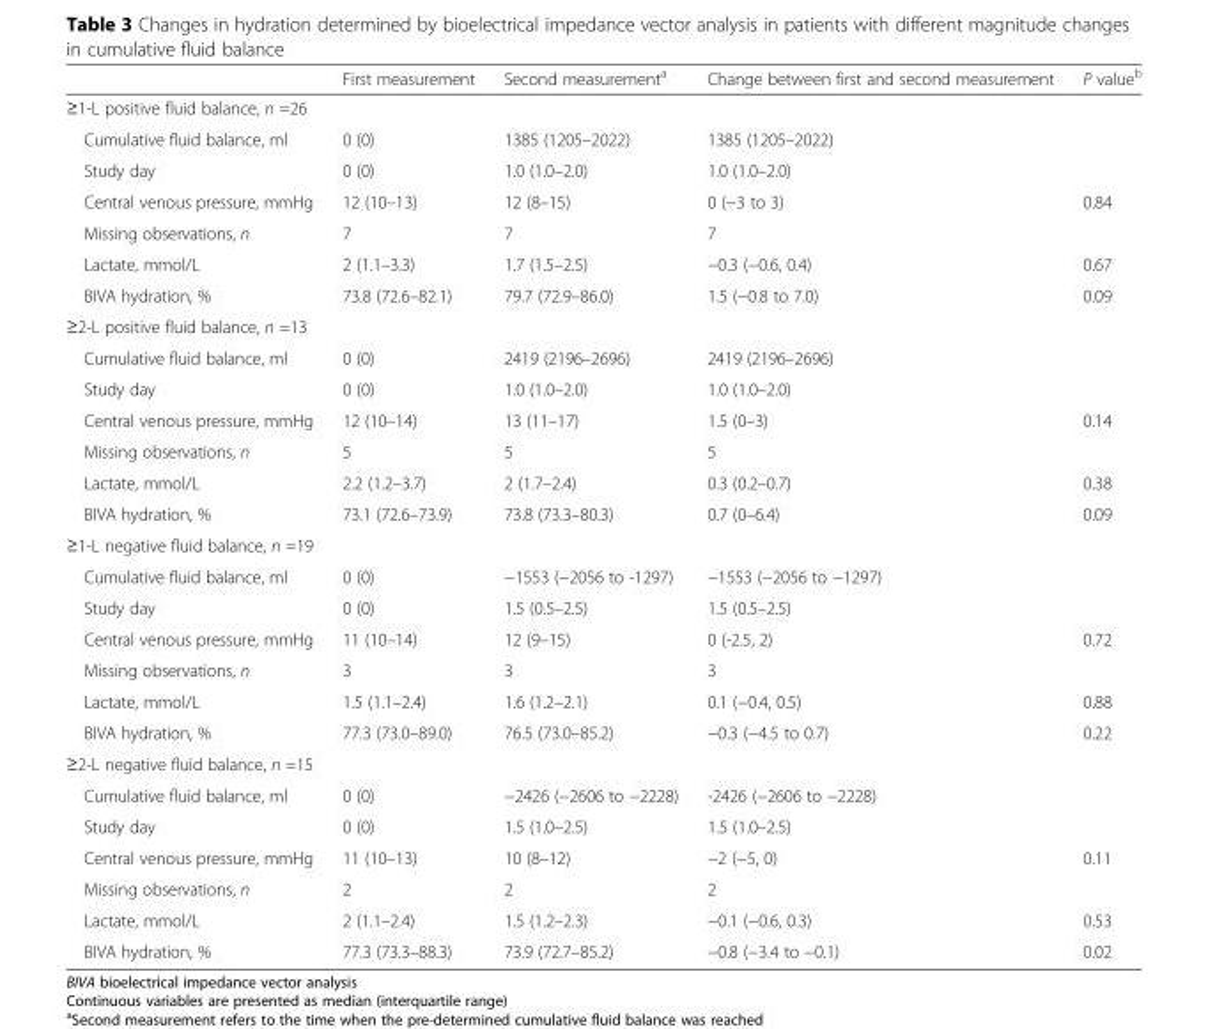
<table><thead><tr><td></td><td>First measurement</td><td>Second measurement<sup>a</sup></td><td>Change between first and second measurement</td><td>P value<sup>b</sup></td></tr></thead><tbody><tr><td colspan="5">≥1-L positive fluid balance, n =26</td></tr><tr><td>Cumulative fluid balance, ml</td><td>0 (0)</td><td>1385 (1205–2022)</td><td>1385 (1205–2022)</td><td></td></tr><tr><td>Study day</td><td>0 (0)</td><td>1.0 (1.0–2.0)</td><td>1.0 (1.0–2.0)</td><td></td></tr><tr><td>Central venous pressure, mmHg</td><td>12 (10–13)</td><td>12 (8–15)</td><td>0 (−3 to 3)</td><td>0.84</td></tr><tr><td>Missing observations, n</td><td>7</td><td>7</td><td>7</td><td></td></tr><tr><td>Lactate, mmol/L</td><td>2 (1.1–3.3)</td><td>1.7 (1.5–2.5)</td><td>−0.3 (−0.6, 0.4)</td><td>0.67</td></tr><tr><td>BIVA hydration, %</td><td>73.8 (72.6–82.1)</td><td>79.7 (72.9–86.0)</td><td>1.5 (−0.8 to 7.0)</td><td>0.09</td></tr><tr><td colspan="5">≥2-L positive fluid balance, n =13</td></tr><tr><td>Cumulative fluid balance, ml</td><td>0 (0)</td><td>2419 (2196–2696)</td><td>2419 (2196–2696)</td><td></td></tr><tr><td>Study day</td><td>0 (0)</td><td>1.0 (1.0–2.0)</td><td>1.0 (1.0–2.0)</td><td></td></tr><tr><td>Central venous pressure, mmHg</td><td>12 (10–14)</td><td>13 (11–17)</td><td>1.5 (0–3)</td><td>0.14</td></tr><tr><td>Missing observations, n</td><td>5</td><td>5</td><td>5</td><td></td></tr><tr><td>Lactate, mmol/L</td><td>2.2 (1.2–3.7)</td><td>2 (1.7–2.4)</td><td>0.3 (0.2–0.7)</td><td>0.38</td></tr><tr><td>BIVA hydration, %</td><td>73.1 (72.6–73.9)</td><td>73.8 (73.3–80.3)</td><td>0.7 (0–6.4)</td><td>0.09</td></tr><tr><td colspan="5">≥1-L negative fluid balance, n =19</td></tr><tr><td>Cumulative fluid balance, ml</td><td>0 (0)</td><td>−1553 (−2056 to -1297)</td><td>−1553 (−2056 to −1297)</td><td></td></tr><tr><td>Study day</td><td>0 (0)</td><td>1.5 (0.5–2.5)</td><td>1.5 (0.5–2.5)</td><td></td></tr><tr><td>Central venous pressure, mmHg</td><td>11 (10–14)</td><td>12 (9–15)</td><td>0 (-2.5, 2)</td><td>0.72</td></tr><tr><td>Missing observations, n</td><td>3</td><td>3</td><td>3</td><td></td></tr><tr><td>Lactate, mmol/L</td><td>1.5 (1.1–2.4)</td><td>1.6 (1.2–2.1)</td><td>0.1 (−0.4, 0.5)</td><td>0.88</td></tr><tr><td>BIVA hydration, %</td><td>77.3 (73.0–89.0)</td><td>76.5 (73.0–85.2)</td><td>−0.3 (−4.5 to 0.7)</td><td>0.22</td></tr><tr><td colspan="5">≥2-L negative fluid balance, n =15</td></tr><tr><td>Cumulative fluid balance, ml</td><td>0 (0)</td><td>−2426 (−2606 to −2228)</td><td>-2426 (−2606 to −2228)</td><td></td></tr><tr><td>Study day</td><td>0 (0)</td><td>1.5 (1.0–2.5)</td><td>1.5 (1.0–2.5)</td><td></td></tr><tr><td>Central venous pressure, mmHg</td><td>11 (10–13)</td><td>10 (8–12)</td><td>−2 (−5, 0)</td><td>0.11</td></tr><tr><td>Missing observations, n</td><td>2</td><td>2</td><td>2</td><td></td></tr><tr><td>Lactate, mmol/L</td><td>2 (1.1–2.4)</td><td>1.5 (1.2–2.3)</td><td>−0.1 (−0.6, 0.3)</td><td>0.53</td></tr><tr><td>BIVA hydration, %</td><td>77.3 (73.3–88.3)</td><td>73.9 (72.7–85.2)</td><td>−0.8 (−3.4 to −0.1)</td><td>0.02</td></tr></tbody></table>